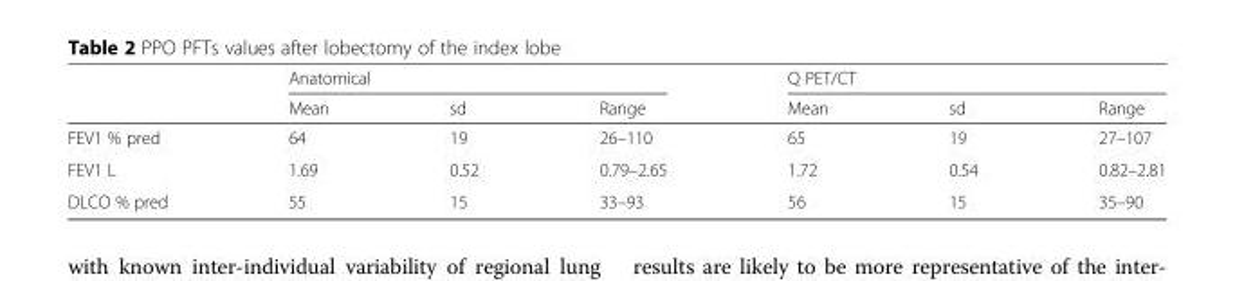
<table><thead><tr><td rowspan="2"></td><td colspan="3">Anatomical</td><td colspan="3">Q PET/CT</td></tr><tr><td>Mean</td><td>sd</td><td>Range</td><td>Mean</td><td>sd</td><td>Range</td></tr></thead><tbody><tr><td>FEV1 % pred</td><td>64</td><td>19</td><td>26–110</td><td>65</td><td>19</td><td>27–107</td></tr><tr><td>FEV1 L</td><td>1.69</td><td>0.52</td><td>0.79–2.65</td><td>1.72</td><td>0.54</td><td>0.82–2.81</td></tr><tr><td>DLCO % pred</td><td>55</td><td>15</td><td>33–93</td><td>56</td><td>15</td><td>35–90</td></tr></tbody></table>